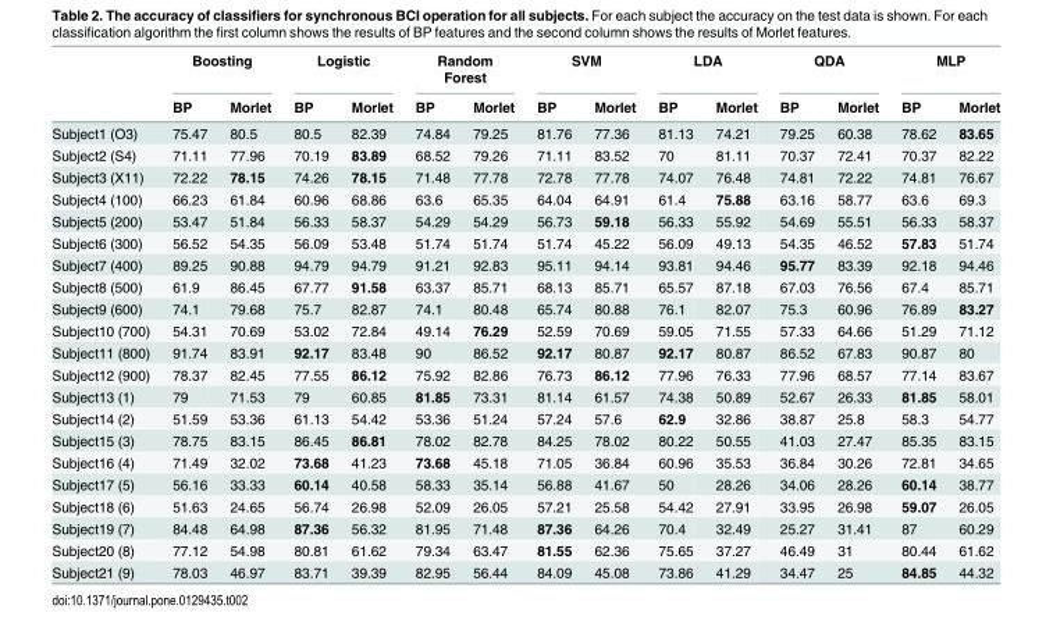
<table><thead><tr><td rowspan="2"></td><td colspan="2">Boosting</td><td colspan="2">Logistic</td><td colspan="2">Random Forest</td><td colspan="2">SVM</td><td colspan="2">LDA</td><td colspan="2">QDA</td><td colspan="2">MLP</td></tr><tr><td>BP</td><td>Morlet</td><td>BP</td><td>Morlet</td><td>BP</td><td>Morlet</td><td>BP</td><td>Morlet</td><td>BP</td><td>Morlet</td><td>BP</td><td>Morlet</td><td>BP</td><td>Morlet</td></tr></thead><tbody><tr><td>Subject1 (O3)</td><td>75.47</td><td>80.5</td><td>80.5</td><td>82.39</td><td>74.84</td><td>79.25</td><td>81.76</td><td>77.36</td><td>81.13</td><td>74.21</td><td>79.25</td><td>60.38</td><td>78.62</td><td>83.65</td></tr><tr><td>Subject2 (S4)</td><td>71.11</td><td>77.96</td><td>70.19</td><td>83.89</td><td>68.52</td><td>79.26</td><td>71.11</td><td>83.52</td><td>70</td><td>81.11</td><td>70.37</td><td>72.41</td><td>70.37</td><td>82.22</td></tr><tr><td>Subject3 (X11)</td><td>72.22</td><td>78.15</td><td>74.26</td><td>78.15</td><td>71.48</td><td>77.78</td><td>72.78</td><td>77.78</td><td>74.07</td><td>76.48</td><td>74.81</td><td>72.22</td><td>74.81</td><td>76.67</td></tr><tr><td>Subject4 (100)</td><td>66.23</td><td>61.84</td><td>60.96</td><td>68.86</td><td>63.6</td><td>65.35</td><td>64.04</td><td>64.91</td><td>61.4</td><td>75.88</td><td>63.16</td><td>58.77</td><td>63.6</td><td>69.3</td></tr><tr><td>Subject5 (200)</td><td>53.47</td><td>51.84</td><td>56.33</td><td>58.37</td><td>54.29</td><td>54.29</td><td>56.73</td><td>59.18</td><td>56.33</td><td>55.92</td><td>54.69</td><td>55.51</td><td>56.33</td><td>58.37</td></tr><tr><td>Subject6 (300)</td><td>56.52</td><td>54.35</td><td>56.09</td><td>53.48</td><td>51.74</td><td>51.74</td><td>51.74</td><td>45.22</td><td>56.09</td><td>49.13</td><td>54.35</td><td>46.52</td><td>57.83</td><td>51.74</td></tr><tr><td>Subject7 (400)</td><td>89.25</td><td>90.88</td><td>94.79</td><td>94.79</td><td>91.21</td><td>92.83</td><td>95.11</td><td>94.14</td><td>93.81</td><td>94.46</td><td>95.77</td><td>83.39</td><td>92.18</td><td>94.46</td></tr><tr><td>Subject8 (500)</td><td>61.9</td><td>86.45</td><td>67.77</td><td>91.58</td><td>63.37</td><td>85.71</td><td>68.13</td><td>85.71</td><td>65.57</td><td>87.18</td><td>67.03</td><td>76.56</td><td>67.4</td><td>85.71</td></tr><tr><td>Subject9 (600)</td><td>74.1</td><td>79.68</td><td>75.7</td><td>82.87</td><td>74.1</td><td>80.48</td><td>65.74</td><td>80.88</td><td>76.1</td><td>82.07</td><td>75.3</td><td>60.96</td><td>76.89</td><td>83.27</td></tr><tr><td>Subject10 (700)</td><td>54.31</td><td>70.69</td><td>53.02</td><td>72.84</td><td>49.14</td><td>76.29</td><td>52.59</td><td>70.69</td><td>59.05</td><td>71.55</td><td>57.33</td><td>64.66</td><td>51.29</td><td>71.12</td></tr><tr><td>Subject11 (800)</td><td>91.74</td><td>83.91</td><td>92.17</td><td>83.48</td><td>90</td><td>86.52</td><td>92.17</td><td>80.87</td><td>92.17</td><td>80.87</td><td>86.52</td><td>67.83</td><td>90.87</td><td>80</td></tr><tr><td>Subject12 (900)</td><td>78.37</td><td>82.45</td><td>77.55</td><td>86.12</td><td>75.92</td><td>82.86</td><td>76.73</td><td>86.12</td><td>77.96</td><td>76.33</td><td>77.96</td><td>68.57</td><td>77.14</td><td>83.67</td></tr><tr><td>Subject13 (1)</td><td>79</td><td>71.53</td><td>79</td><td>60.85</td><td>81.85</td><td>73.31</td><td>81.14</td><td>61.57</td><td>74.38</td><td>50.89</td><td>52.67</td><td>26.33</td><td>81.85</td><td>58.01</td></tr><tr><td>Subject14 (2)</td><td>51.59</td><td>53.36</td><td>61.13</td><td>54.42</td><td>53.36</td><td>51.24</td><td>57.24</td><td>57.6</td><td>62.9</td><td>32.86</td><td>38.87</td><td>25.8</td><td>58.3</td><td>54.77</td></tr><tr><td>Subject15 (3)</td><td>78.75</td><td>83.15</td><td>86.45</td><td>86.81</td><td>78.02</td><td>82.78</td><td>84.25</td><td>78.02</td><td>80.22</td><td>50.55</td><td>41.03</td><td>27.47</td><td>85.35</td><td>83.15</td></tr><tr><td>Subject16 (4)</td><td>71.49</td><td>32.02</td><td>73.68</td><td>41.23</td><td>73.68</td><td>45.18</td><td>71.05</td><td>36.84</td><td>60.96</td><td>35.53</td><td>36.84</td><td>30.26</td><td>72.81</td><td>34.65</td></tr><tr><td>Subject17 (5)</td><td>56.16</td><td>33.33</td><td>60.14</td><td>40.58</td><td>58.33</td><td>35.14</td><td>56.88</td><td>41.67</td><td>50</td><td>28.26</td><td>34.06</td><td>28.26</td><td>60.14</td><td>38.77</td></tr><tr><td>Subject18 (6)</td><td>51.63</td><td>24.65</td><td>56.74</td><td>26.98</td><td>52.09</td><td>26.05</td><td>57.21</td><td>25.58</td><td>54.42</td><td>27.91</td><td>33.95</td><td>26.98</td><td>59.07</td><td>26.05</td></tr><tr><td>Subject19 (7)</td><td>84.48</td><td>64.98</td><td>87.36</td><td>56.32</td><td>81.95</td><td>71.48</td><td>87.36</td><td>64.26</td><td>70.4</td><td>32.49</td><td>25.27</td><td>31.41</td><td>87</td><td>60.29</td></tr><tr><td>Subject20 (8)</td><td>77.12</td><td>54.98</td><td>80.81</td><td>61.62</td><td>79.34</td><td>63.47</td><td>81.55</td><td>62.36</td><td>75.65</td><td>37.27</td><td>46.49</td><td>31</td><td>80.44</td><td>61.62</td></tr><tr><td>Subject21 (9)</td><td>78.03</td><td>46.97</td><td>83.71</td><td>39.39</td><td>82.95</td><td>56.44</td><td>84.09</td><td>45.08</td><td>73.86</td><td>41.29</td><td>34.47</td><td>25</td><td>84.85</td><td>44.32</td></tr></tbody></table>